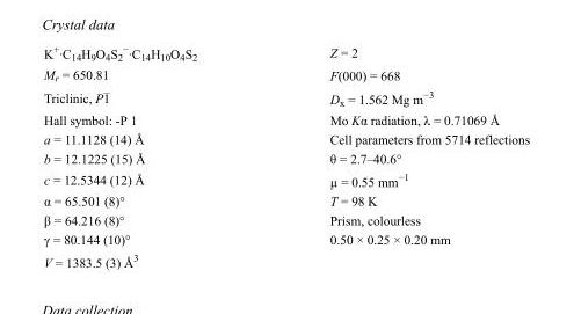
<table><tbody><tr><td>K<sup>+</sup>·C<sub>14</sub>H<sub>9</sub>O<sub>4</sub>S<sub>2</sub> <sup>−</sup>·C<sub>14</sub>H<sub>10</sub>O<sub>4</sub>S<sub>2</sub></td><td>Z = 2</td></tr><tr><td>M<sub>r</sub> = 650.81</td><td>F(000) = 668</td></tr><tr><td>Triclinic, P1</td><td>D<sub>x</sub> = 1.562 Mg m<sup>−3</sup></td></tr><tr><td>Hall symbol: -P 1</td><td>Mo Kα radiation, λ = 0.71069 Å</td></tr><tr><td>a = 11.1128 (14) Å</td><td>Cell parameters from 5714 reflections</td></tr><tr><td>b = 12.1225 (15) Å</td><td>θ = 2.7–40.6°</td></tr><tr><td>c = 12.5344 (12) Å</td><td>µ = 0.55 mm<sup>−1</sup></td></tr><tr><td>α = 65.501 (8)°</td><td>T = 98 K</td></tr><tr><td>β = 64.216 (8)°</td><td>Prism, colourless</td></tr><tr><td>γ = 80.144 (10)°</td><td>0.50 × 0.25 × 0.20 mm</td></tr><tr><td>V = 1383.5 (3) Å<sup>3</sup></td><td></td></tr></tbody></table>